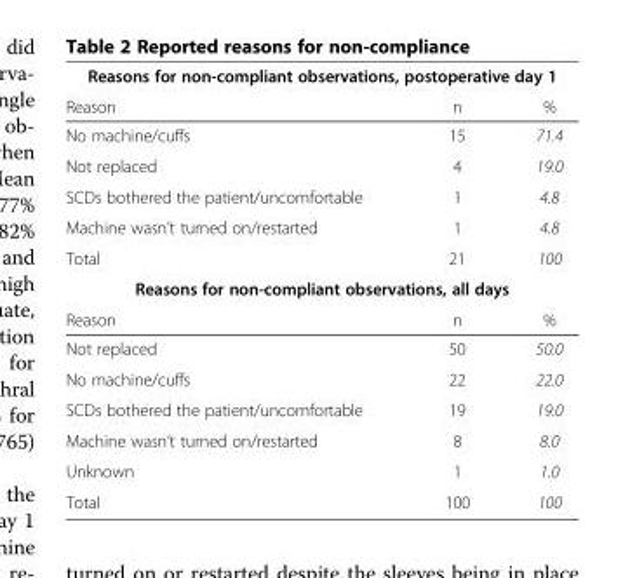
<table><tbody><tr><td colspan="3">Reasons for non-compliant observations, postoperative day 1</td></tr><tr><td>Reason</td><td>n</td><td>%</td></tr><tr><td>No machine/cuffs</td><td>15</td><td>71.4</td></tr><tr><td>Not replaced</td><td>4</td><td>19.0</td></tr><tr><td>SCDs bothered the patient/uncomfortable</td><td>1</td><td>4.8</td></tr><tr><td>Machine wasn’t turned on/restarted</td><td>1</td><td>4.8</td></tr><tr><td>Total</td><td>21</td><td>100</td></tr><tr><td colspan="3">Reasons for non-compliant observations, all days</td></tr><tr><td>Reason</td><td>n</td><td>%</td></tr><tr><td>Not replaced</td><td>50</td><td>50.0</td></tr><tr><td>No machine/cuffs</td><td>22</td><td>22.0</td></tr><tr><td>SCDs bothered the patient/uncomfortable</td><td>19</td><td>19.0</td></tr><tr><td>Machine wasn’t turned on/restarted</td><td>8</td><td>8.0</td></tr><tr><td>Unknown</td><td>1</td><td>1.0</td></tr><tr><td>Total</td><td>100</td><td>100</td></tr></tbody></table>